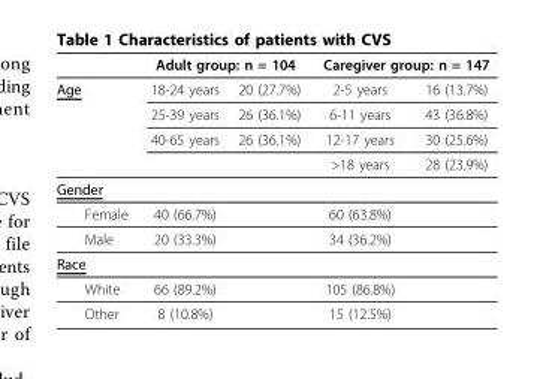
<table><thead><tr><td rowspan="2">Age</td><td colspan="2">Adult group: n = 104</td><td colspan="2">Caregiver group: n = 147</td></tr><tr><td>18-24 years</td><td>20 (27.7%)</td><td>2-5 years</td><td>16 (13.7%)</td></tr></thead><tbody><tr><td></td><td>25-39 years</td><td>26 (36.1%)</td><td>6-11 years</td><td>43 (36.8%)</td></tr><tr><td></td><td>40-65 years</td><td>26 (36.1%)</td><td>12-17 years</td><td>30 (25.6%)</td></tr><tr><td></td><td></td><td></td><td>&gt;18 years</td><td>28 (23.9%)</td></tr><tr><td colspan="5">Gender</td></tr><tr><td>Female</td><td>40 (66.7%)</td><td></td><td>60 (63.8%)</td><td></td></tr><tr><td>Male</td><td>20 (33.3%)</td><td></td><td>34 (36.2%)</td><td></td></tr><tr><td colspan="5">Race</td></tr><tr><td>White</td><td>66 (89.2%)</td><td></td><td>105 (86.8%)</td><td></td></tr><tr><td>Other</td><td>8 (10.8%)</td><td></td><td>15 (12.5%)</td><td></td></tr></tbody></table>